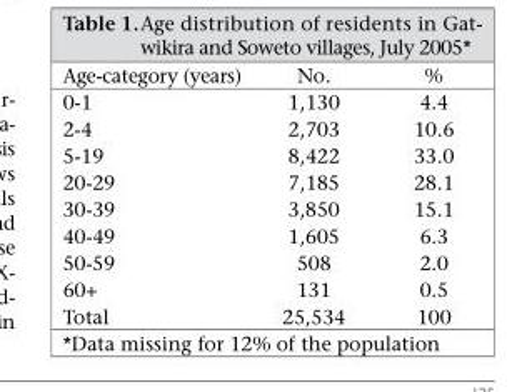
<table><thead><tr><td>Age-category (years)</td><td>No.</td><td>%</td></tr></thead><tbody><tr><td>0-1</td><td>1,130</td><td>4.4</td></tr><tr><td>2-4</td><td>2,703</td><td>10.6</td></tr><tr><td>5-19</td><td>8,422</td><td>33.0</td></tr><tr><td>20-29</td><td>7,185</td><td>28.1</td></tr><tr><td>30-39</td><td>3,850</td><td>15.1</td></tr><tr><td>40-49</td><td>1,605</td><td>6.3</td></tr><tr><td>50-59</td><td>508</td><td>2.0</td></tr><tr><td>60+</td><td>131</td><td>0.5</td></tr><tr><td>Total</td><td>25,534</td><td>100</td></tr></tbody></table>